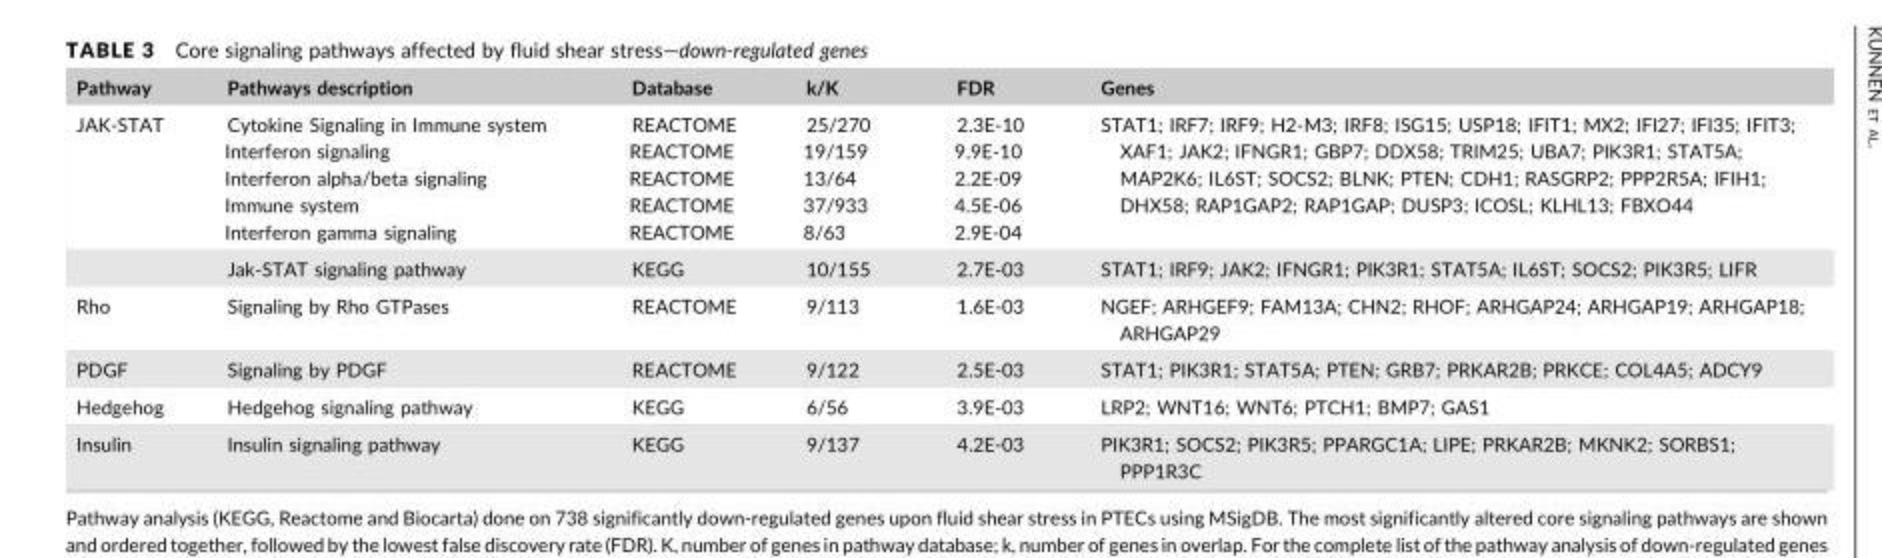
<table><thead><tr><td>Pathway</td><td>Pathways description</td><td>Database</td><td>k/K</td><td>FDR</td><td>Genes</td></tr></thead><tbody><tr><td rowspan="2">JAK-STAT</td><td>Cytokine Signaling in Immune system Interferon signaling Interferon alpha/beta signaling Immune system Interferon gamma signaling</td><td>REACTOME REACTOME REACTOME REACTOME REACTOME</td><td>25/270 19/159 13/64 37/933 8/63</td><td>2.3E-10 9.9E-10 2.2E-09 4.5E-06 2.9E-04</td><td>STAT1; IRF7; IRF9; H2-M3; IRF8; ISG15; USP18; IFIT1; MX2; IFI27; IFI35; IFIT3; XAF1; JAK2; IFNGR1; GBP7; DDX58; TRIM25; UBA7; PIK3R1; STAT5A; MAP2K6; IL6ST; SOCS2; BLNK; PTEN; CDH1; RASGRP2; PPP2R5A; IFIH1; DHX58; RAP1GAP2; RAP1GAP; DUSP3; ICOSL; KLHL13; FBXO44</td></tr><tr><td>Jak-STAT signaling pathway</td><td>KEGG</td><td>10/155</td><td>2.7E-03</td><td>STAT1; IRF9; JAK2; IFNGR1; PIK3R1; STAT5A; IL6ST; SOCS2; PIK3R5; LIFR</td></tr><tr><td>Rho</td><td>Signaling by Rho GTPases</td><td>REACTOME</td><td>9/113</td><td>1.6E-03</td><td>NGEF; ARHGEF9; FAM13A; CHN2; RHOF; ARHGAP24; ARHGAP19; ARHGAP18; ARHGAP29</td></tr><tr><td>PDGF</td><td>Signaling by PDGF</td><td>REACTOME</td><td>9/122</td><td>2.5E-03</td><td>STAT1; PIK3R1; STAT5A; PTEN; GRB7; PRKAR2B; PRKCE; COL4A5; ADCY9</td></tr><tr><td>Hedgehog</td><td>Hedgehog signaling pathway</td><td>KEGG</td><td>6/56</td><td>3.9E-03</td><td>LRP2; WNT16; WNT6; PTCH1; BMP7; GAS1</td></tr><tr><td>Insulin</td><td>Insulin signaling pathway</td><td>KEGG</td><td>9/137</td><td>4.2E-03</td><td>PIK3R1; SOCS2; PIK3R5; PPARGC1A; LIPE; PRKAR2B; MKNK2; SORBS1; PPP1R3C</td></tr></tbody></table>